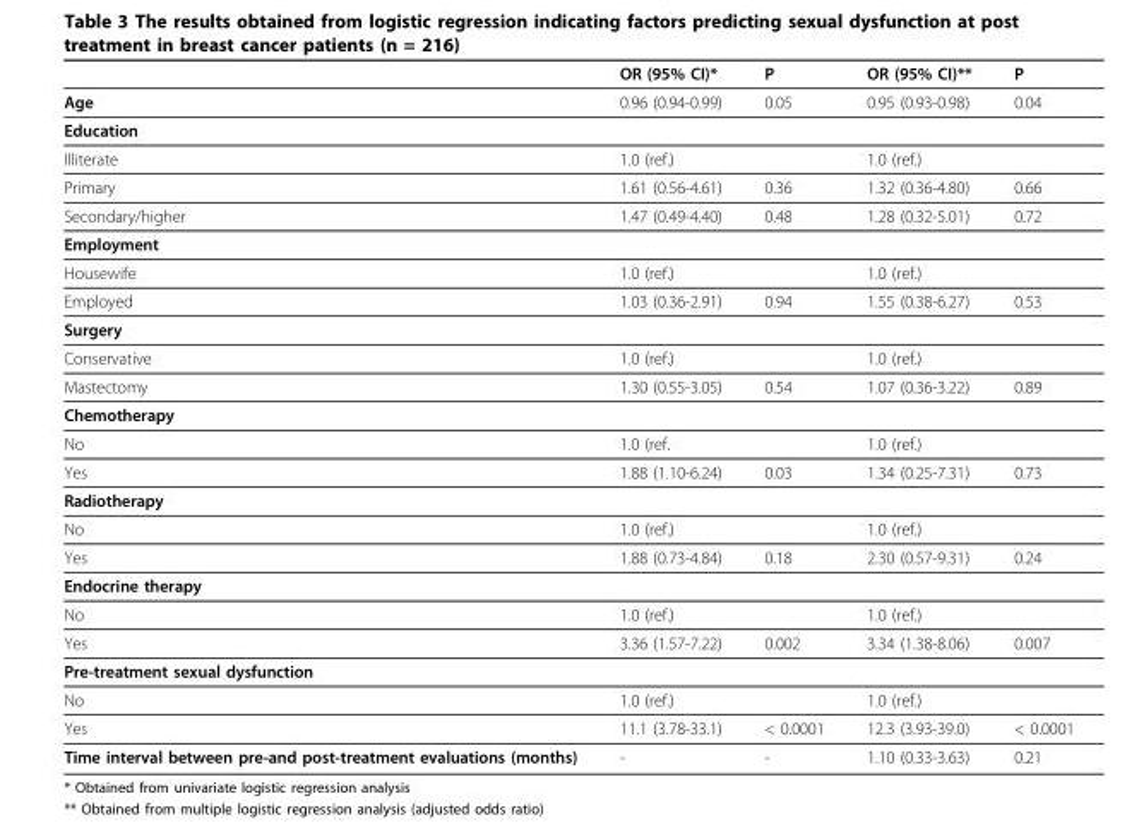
<table><thead><tr><td></td><td>OR (95% CI)*</td><td>P</td><td>OR (95% CI)**</td><td>P</td></tr></thead><tbody><tr><td>Age</td><td>0.96 (0.94-0.99)</td><td>0.05</td><td>0.95 (0.93-0.98)</td><td>0.04</td></tr><tr><td colspan="5">Education</td></tr><tr><td>Illiterate</td><td>1.0 (ref.)</td><td></td><td>1.0 (ref.)</td><td></td></tr><tr><td>Primary</td><td>1.61 (0.56-4.61)</td><td>0.36</td><td>1.32 (0.36-4.80)</td><td>0.66</td></tr><tr><td>Secondary/higher</td><td>1.47 (0.49-4.40)</td><td>0.48</td><td>1.28 (0.32-5.01)</td><td>0.72</td></tr><tr><td colspan="5">Employment</td></tr><tr><td>Housewife</td><td>1.0 (ref.)</td><td></td><td>1.0 (ref.)</td><td></td></tr><tr><td>Employed</td><td>1.03 (0.36-2.91)</td><td>0.94</td><td>1.55 (0.38-6.27)</td><td>0.53</td></tr><tr><td colspan="5">Surgery</td></tr><tr><td>Conservative</td><td>1.0 (ref.)</td><td></td><td>1.0 (ref.)</td><td></td></tr><tr><td>Mastectomy</td><td>1.30 (0.55-3.05)</td><td>0.54</td><td>1.07 (0.36-3.22)</td><td>0.89</td></tr><tr><td colspan="5">Chemotherapy</td></tr><tr><td>No</td><td>1.0 (ref.</td><td></td><td>1.0 (ref.)</td><td></td></tr><tr><td>Yes</td><td>1.88 (1.10-6.24)</td><td>0.03</td><td>1.34 (0.25-7.31)</td><td>0.73</td></tr><tr><td colspan="5">Radiotherapy</td></tr><tr><td>No</td><td>1.0 (ref.)</td><td></td><td>1.0 (ref.)</td><td></td></tr><tr><td>Yes</td><td>1.88 (0.73-4.84)</td><td>0.18</td><td>2.30 (0.57-9.31)</td><td>0.24</td></tr><tr><td colspan="5">Endocrine therapy</td></tr><tr><td>No</td><td>1.0 (ref.)</td><td></td><td>1.0 (ref.)</td><td></td></tr><tr><td>Yes</td><td>3.36 (1.57-7.22)</td><td>0.002</td><td>3.34 (1.38-8.06)</td><td>0.007</td></tr><tr><td colspan="5">Pre-treatment sexual dysfunction</td></tr><tr><td>No</td><td>1.0 (ref.)</td><td></td><td>1.0 (ref.)</td><td></td></tr><tr><td>Yes</td><td>11.1 (3.78-33.1)</td><td>&lt; 0.0001</td><td>12.3 (3.93-39.0)</td><td>&lt; 0.0001</td></tr><tr><td>Time interval between pre-and post-treatment evaluations (months)</td><td>-</td><td>-</td><td>1.10 (0.33-3.63)</td><td>0.21</td></tr></tbody></table>